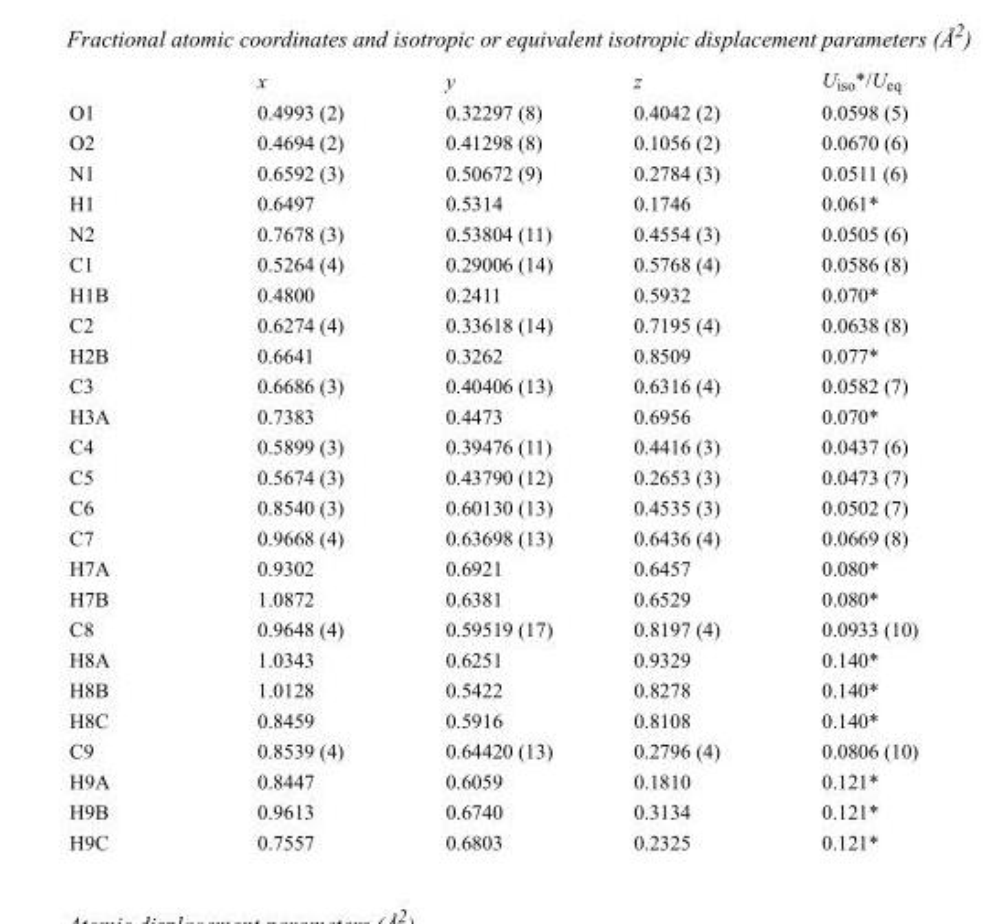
<table><thead><tr><td></td><td>x</td><td>y</td><td>z</td><td>U<sub>iso</sub>*/U<sub>eq</sub></td></tr></thead><tbody><tr><td>O1</td><td>0.4993 (2)</td><td>0.32297 (8)</td><td>0.4042 (2)</td><td>0.0598 (5)</td></tr><tr><td>O2</td><td>0.4694 (2)</td><td>0.41298 (8)</td><td>0.1056 (2)</td><td>0.0670 (6)</td></tr><tr><td>N1</td><td>0.6592 (3)</td><td>0.50672 (9)</td><td>0.2784 (3)</td><td>0.0511 (6)</td></tr><tr><td>H1</td><td>0.6497</td><td>0.5314</td><td>0.1746</td><td>0.061*</td></tr><tr><td>N2</td><td>0.7678 (3)</td><td>0.53804 (11)</td><td>0.4554 (3)</td><td>0.0505 (6)</td></tr><tr><td>C1</td><td>0.5264 (4)</td><td>0.29006 (14)</td><td>0.5768 (4)</td><td>0.0586 (8)</td></tr><tr><td>H1B</td><td>0.4800</td><td>0.2411</td><td>0.5932</td><td>0.070*</td></tr><tr><td>C2</td><td>0.6274 (4)</td><td>0.33618 (14)</td><td>0.7195 (4)</td><td>0.0638 (8)</td></tr><tr><td>H2B</td><td>0.6641</td><td>0.3262</td><td>0.8509</td><td>0.077*</td></tr><tr><td>C3</td><td>0.6686 (3)</td><td>0.40406 (13)</td><td>0.6316 (4)</td><td>0.0582 (7)</td></tr><tr><td>H3A</td><td>0.7383</td><td>0.4473</td><td>0.6956</td><td>0.070*</td></tr><tr><td>C4</td><td>0.5899 (3)</td><td>0.39476 (11)</td><td>0.4416 (3)</td><td>0.0437 (6)</td></tr><tr><td>C5</td><td>0.5674 (3)</td><td>0.43790 (12)</td><td>0.2653 (3)</td><td>0.0473 (7)</td></tr><tr><td>C6</td><td>0.8540 (3)</td><td>0.60130 (13)</td><td>0.4535 (3)</td><td>0.0502 (7)</td></tr><tr><td>C7</td><td>0.9668 (4)</td><td>0.63698 (13)</td><td>0.6436 (4)</td><td>0.0669 (8)</td></tr><tr><td>H7A</td><td>0.9302</td><td>0.6921</td><td>0.6457</td><td>0.080*</td></tr><tr><td>H7B</td><td>1.0872</td><td>0.6381</td><td>0.6529</td><td>0.080*</td></tr><tr><td>C8</td><td>0.9648 (4)</td><td>0.59519 (17)</td><td>0.8197 (4)</td><td>0.0933 (10)</td></tr><tr><td>H8A</td><td>1.0343</td><td>0.6251</td><td>0.9329</td><td>0.140*</td></tr><tr><td>H8B</td><td>1.0128</td><td>0.5422</td><td>0.8278</td><td>0.140*</td></tr><tr><td>H8C</td><td>0.8459</td><td>0.5916</td><td>0.8108</td><td>0.140*</td></tr><tr><td>C9</td><td>0.8539 (4)</td><td>0.64420 (13)</td><td>0.2796 (4)</td><td>0.0806 (10)</td></tr><tr><td>H9A</td><td>0.8447</td><td>0.6059</td><td>0.1810</td><td>0.121*</td></tr><tr><td>H9B</td><td>0.9613</td><td>0.6740</td><td>0.3134</td><td>0.121*</td></tr><tr><td>H9C</td><td>0.7557</td><td>0.6803</td><td>0.2325</td><td>0.121*</td></tr></tbody></table>